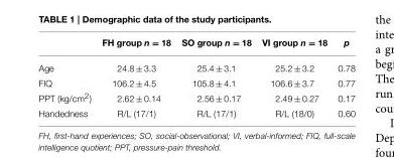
<table><thead><tr><td></td><td>FH group n = 18</td><td>SO group n = 18</td><td>VI group n = 18</td><td>p</td></tr></thead><tbody><tr><td>Age</td><td>24.8 ± 3.3</td><td>25.4 ± 3.1</td><td>25.2 ± 3.2</td><td>0.78</td></tr><tr><td>FIQ</td><td>106.2 ± 4.5</td><td>105.8 ± 4.1</td><td>106.6 ± 3.7</td><td>0.77</td></tr><tr><td>PPT (kg/cm<sup>2</sup>)</td><td>2.62 ± 0.14</td><td>2.56 ± 0.17</td><td>2.49 ± 0.27</td><td>0.17</td></tr><tr><td>Handedness</td><td>R/L (17/1)</td><td>R/L (17/1)</td><td>R/L (18/0)</td><td>0.60</td></tr></tbody></table>